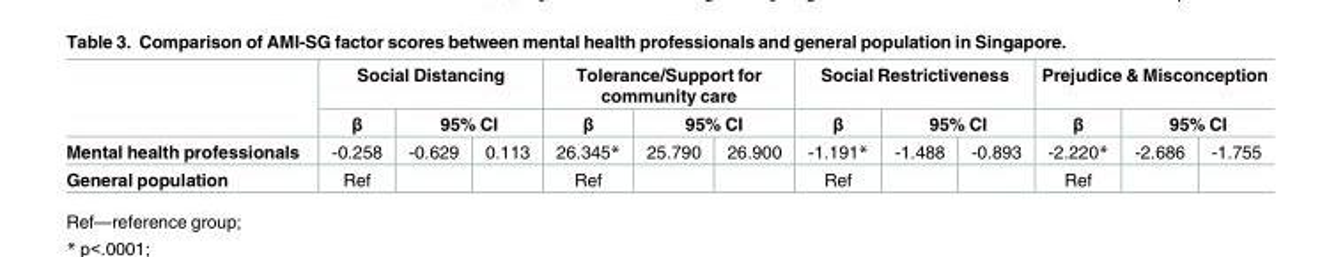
<table><thead><tr><td rowspan="3">Mental health professionals</td><td colspan="3">Social Distancing</td><td colspan="3">Tolerance/Support for community care</td><td colspan="3">Social Restrictiveness</td><td colspan="3">Prejudice &amp; Misconception</td></tr><tr><td rowspan="2">β -0.258</td><td colspan="2">95% CI</td><td rowspan="2">β 26.345*</td><td colspan="2">95% CI</td><td rowspan="2">β -1.191*</td><td colspan="2">95% CI</td><td rowspan="2">β -2.220*</td><td colspan="2">95% CI</td></tr><tr><td>-0.629</td><td>0.113</td><td>25.790</td><td>26.900</td><td>-1.488</td><td>-0.893</td><td>-2.686</td><td>-1.755</td></tr></thead><tbody><tr><td>General population</td><td>Ref</td><td></td><td></td><td>Ref</td><td></td><td></td><td>Ref</td><td></td><td></td><td>Ref</td><td></td><td></td></tr></tbody></table>